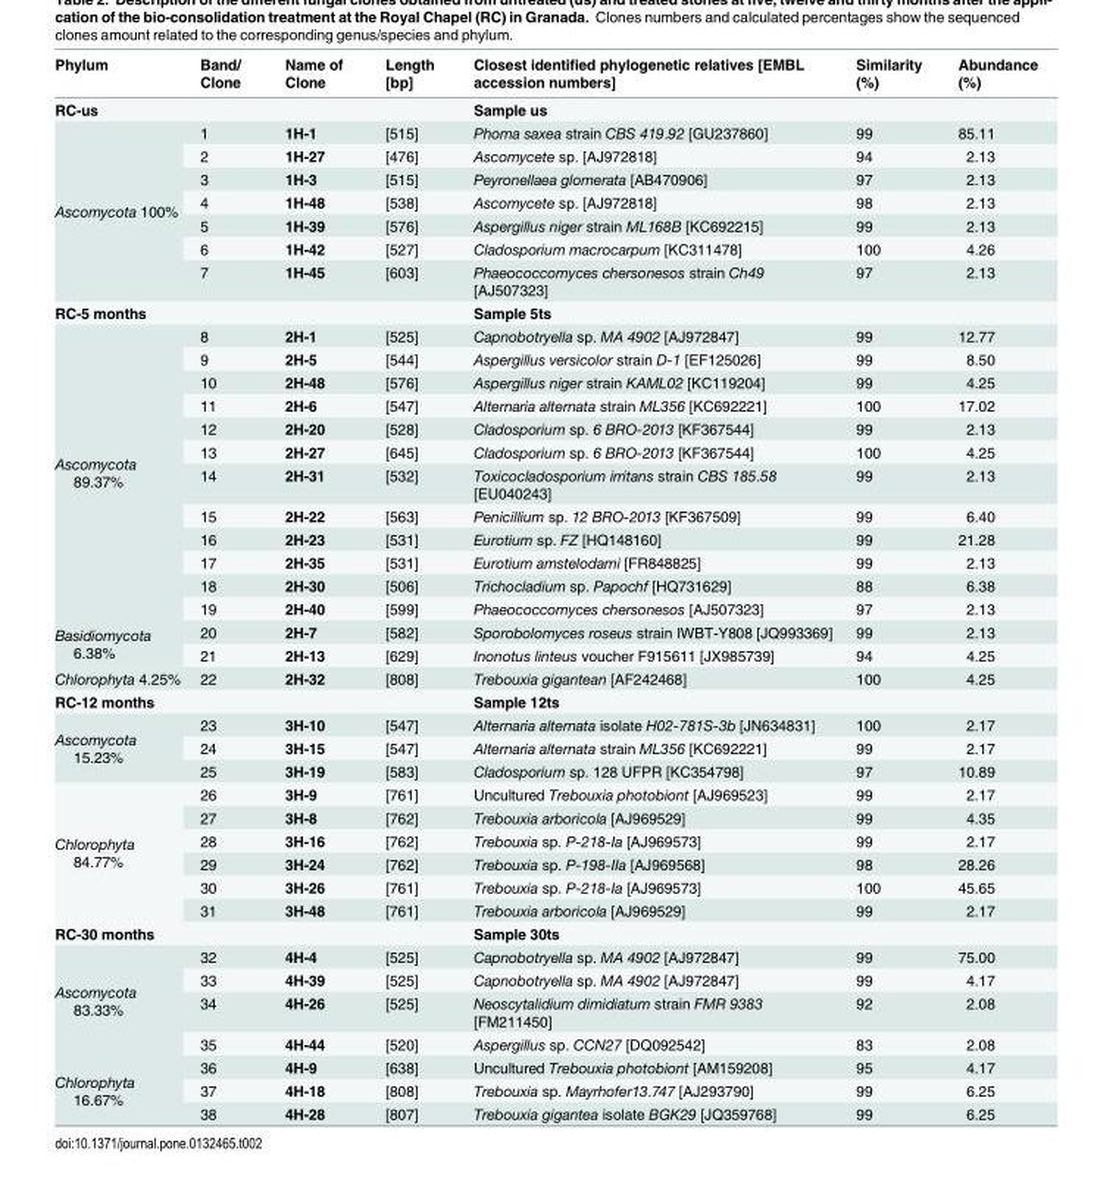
<table><thead><tr><td>Phylum</td><td>Band/ Clone</td><td>Name of Clone</td><td>Length [bp]</td><td>Closest identified phylogenetic relatives [EMBL accession numbers]</td><td>Similarity (%)</td><td>Abundance (%)</td></tr></thead><tbody><tr><td colspan="3">RC-us</td><td></td><td colspan="3">Sample us</td></tr><tr><td rowspan="7">Ascomycota 100%</td><td>1</td><td>1H-1</td><td>[515]</td><td>Phoma saxea strain CBS 419.92 [GU237860]</td><td>99</td><td>85.11</td></tr><tr><td>2</td><td>1H-27</td><td>[476]</td><td>Ascomycete sp. [AJ972818]</td><td>94</td><td>2.13</td></tr><tr><td>3</td><td>1H-3</td><td>[515]</td><td>Peyronellaea glomerata [AB470906]</td><td>97</td><td>2.13</td></tr><tr><td>4</td><td>1H-48</td><td>[538]</td><td>Ascomycete sp. [AJ972818]</td><td>98</td><td>2.13</td></tr><tr><td>5</td><td>1H-39</td><td>[576]</td><td>Aspergillus niger strain ML168B [KC692215]</td><td>99</td><td>2.13</td></tr><tr><td>6</td><td>1H-42</td><td>[527]</td><td>Cladosporium macrocarpum [KC311478]</td><td>100</td><td>4.26</td></tr><tr><td>7</td><td>1H-45</td><td>[603]</td><td>Phaeococcomyces chersonesos strain Ch49 [AJ507323]</td><td>97</td><td>2.13</td></tr><tr><td colspan="4">RC-5 months</td><td colspan="3">Sample 5ts</td></tr><tr><td rowspan="12">Ascomycota 89.37%</td><td>8</td><td>2H-1</td><td>[525]</td><td>Capnobotryella sp. MA 4902 [AJ972847]</td><td>99</td><td>12.77</td></tr><tr><td>9</td><td>2H-5</td><td>[544]</td><td>Aspergillus versicolor strain D-1 [EF125026]</td><td>99</td><td>8.50</td></tr><tr><td>10</td><td>2H-48</td><td>[576]</td><td>Aspergillus niger strain KAML02 [KC119204]</td><td>99</td><td>4.25</td></tr><tr><td>11</td><td>2H-6</td><td>[547]</td><td>Alternaria alternata strain ML356 [KC692221]</td><td>100</td><td>17.02</td></tr><tr><td>12</td><td>2H-20</td><td>[528]</td><td>Cladosporium sp. 6 BRO-2013 [KF367544]</td><td>99</td><td>2.13</td></tr><tr><td>13</td><td>2H-27</td><td>[645]</td><td>Cladosporium sp. 6 BRO-2013 [KF367544]</td><td>100</td><td>4.25</td></tr><tr><td>14</td><td>2H-31</td><td>[532]</td><td>Toxicocladosporium irritans strain CBS 185.58 [EU040243]</td><td>99</td><td>2.13</td></tr><tr><td>15</td><td>2H-22</td><td>[563]</td><td>Penicillium sp. 12 BRO-2013 [KF367509]</td><td>99</td><td>6.40</td></tr><tr><td>16</td><td>2H-23</td><td>[531]</td><td>Eurotium sp. FZ [HQ148160]</td><td>99</td><td>21.28</td></tr><tr><td>17</td><td>2H-35</td><td>[531]</td><td>Eurotium amstelodami [FR848825]</td><td>99</td><td>2.13</td></tr><tr><td>18</td><td>2H-30</td><td>[506]</td><td>Trichocladium sp. Papochf [HQ731629]</td><td>88</td><td>6.38</td></tr><tr><td>19</td><td>2H-40</td><td>[599]</td><td>Phaeococcomyces chersonesos [AJ507323]</td><td>97</td><td>2.13</td></tr><tr><td rowspan="2">Basidiomycota 6.38%</td><td>20</td><td>2H-7</td><td>[582]</td><td>Sporobolomyces roseus strain IWBT-Y808 [JQ993369]</td><td>99</td><td>2.13</td></tr><tr><td>21</td><td>2H-13</td><td>[629]</td><td>Inonotus linteus voucher F915611 [JX985739]</td><td>94</td><td>4.25</td></tr><tr><td>Chlorophyta 4.25%</td><td>22</td><td>2H-32</td><td>[808]</td><td>Trebouxia gigantean [AF242468]</td><td>100</td><td>4.25</td></tr><tr><td colspan="4">RC-12 months</td><td colspan="3">Sample 12ts</td></tr><tr><td rowspan="3">Ascomycota 15.23%</td><td>23</td><td>3H-10</td><td>[547]</td><td>Alternaria alternata isolate H02-781S-3b [JN634831]</td><td>100</td><td>2.17</td></tr><tr><td>24</td><td>3H-15</td><td>[547]</td><td>Alternaria alternata strain ML356 [KC692221]</td><td>99</td><td>2.17</td></tr><tr><td>25</td><td>3H-19</td><td>[583]</td><td>Cladosporium sp. 128 UFPR [KC354798]</td><td>97</td><td>10.89</td></tr><tr><td rowspan="6">Chlorophyta 84.77%</td><td>26</td><td>3H-9</td><td>[761]</td><td>Uncultured Trebouxia photobiont [AJ969523]</td><td>99</td><td>2.17</td></tr><tr><td>27</td><td>3H-8</td><td>[762]</td><td>Trebouxia arboricola [AJ969529]</td><td>99</td><td>4.35</td></tr><tr><td>28</td><td>3H-16</td><td>[762]</td><td>Trebouxia sp. P-218-Ia [AJ969573]</td><td>99</td><td>2.17</td></tr><tr><td>29</td><td>3H-24</td><td>[762]</td><td>Trebouxia sp. P-198-IIa [AJ969568]</td><td>98</td><td>28.26</td></tr><tr><td>30</td><td>3H-26</td><td>[761]</td><td>Trebouxia sp. P-218-Ia [AJ969573]</td><td>100</td><td>45.65</td></tr><tr><td>31</td><td>3H-48</td><td>[761]</td><td>Trebouxia arboricola [AJ969529]</td><td>99</td><td>2.17</td></tr><tr><td colspan="4">RC-30 months</td><td colspan="3">Sample 30ts</td></tr><tr><td rowspan="4">Ascomycota 83.33%</td><td>32</td><td>4H-4</td><td>[525]</td><td>Capnobotryella sp. MA 4902 [AJ972847]</td><td>99</td><td>75.00</td></tr><tr><td>33</td><td>4H-39</td><td>[525]</td><td>Capnobotryella sp. MA 4902 [AJ972847]</td><td>99</td><td>4.17</td></tr><tr><td>34</td><td>4H-26</td><td>[525]</td><td>Neoscytalidium dimidiatum strain FMR 9383 [FM211450]</td><td>92</td><td>2.08</td></tr><tr><td>35</td><td>4H-44</td><td>[520]</td><td>Aspergillus sp. CCN27 [DQ092542]</td><td>83</td><td>2.08</td></tr><tr><td rowspan="3">Chlorophyta 16.67%</td><td>36</td><td>4H-9</td><td>[638]</td><td>Uncultured Trebouxia photobiont [AM159208]</td><td>95</td><td>4.17</td></tr><tr><td>37</td><td>4H-18</td><td>[808]</td><td>Trebouxia sp. Mayrhofer13.747 [AJ293790]</td><td>99</td><td>6.25</td></tr><tr><td>38</td><td>4H-28</td><td>[807]</td><td>Trebouxia gigantea isolate BGK29 [JQ359768]</td><td>99</td><td>6.25</td></tr></tbody></table>